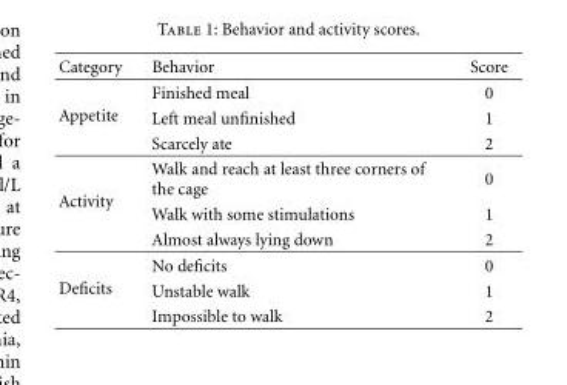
<table><thead><tr><td>Category</td><td>Behavior</td><td>Score</td></tr></thead><tbody><tr><td rowspan="3">Appetite</td><td>Finished meal</td><td>0</td></tr><tr><td>Left meal unfinished</td><td>1</td></tr><tr><td>Scarcely ate</td><td>2</td></tr><tr><td rowspan="3">Activity</td><td>Walk and reach at least three corners of the cage</td><td>0</td></tr><tr><td>Walk with some stimulations</td><td>1</td></tr><tr><td>Almost always lying down</td><td>2</td></tr><tr><td rowspan="3">Deficits</td><td>No deficits</td><td>0</td></tr><tr><td>Unstable walk</td><td>1</td></tr><tr><td>Impossible to walk</td><td>2</td></tr></tbody></table>